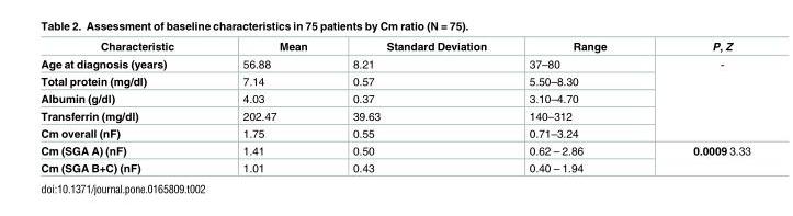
<table><thead><tr><td>Characteristic</td><td>Mean</td><td>Standard Deviation</td><td>Range</td><td>P, Z</td></tr></thead><tbody><tr><td>Age at diagnosis (years)</td><td>56.88</td><td>8.21</td><td>37–80</td><td rowspan="5">-</td></tr><tr><td>Total protein (mg/dl)</td><td>7.14</td><td>0.57</td><td>5.50–8.30</td></tr><tr><td>Albumin (g/dl)</td><td>4.03</td><td>0.37</td><td>3.10–4.70</td></tr><tr><td>Transferrin (mg/dl)</td><td>202.47</td><td>39.63</td><td>140–312</td></tr><tr><td>Cm overall (nF)</td><td>1.75</td><td>0.55</td><td>0.71–3.24</td></tr><tr><td>Cm (SGA A) (nF)</td><td>1.41</td><td>0.50</td><td>0.62 – 2.86</td><td rowspan="2">0.0009 3.33</td></tr><tr><td>Cm (SGA B+C) (nF)</td><td>1.01</td><td>0.43</td><td>0.40 – 1.94</td></tr></tbody></table>